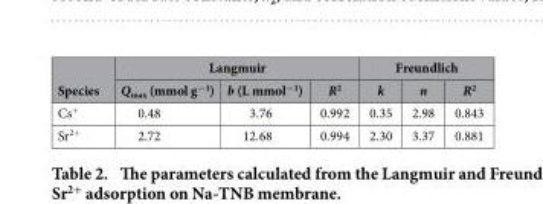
<table><thead><tr><td rowspan="2">Species</td><td colspan="3">Langmuir</td><td colspan="3">Freundlich</td></tr><tr><td>Q<sub>max</sub> (mmol g<sup>−1</sup>)</td><td>b (L mmol<sup>−1</sup>)</td><td>R<sup>2</sup></td><td>k</td><td>n</td><td>R<sup>2</sup></td></tr></thead><tbody><tr><td>Cs<sup>+</sup></td><td>0.48</td><td>3.76</td><td>0.992</td><td>0.35</td><td>2.98</td><td>0.843</td></tr><tr><td>Sr<sup>2+</sup></td><td>2.72</td><td>12.68</td><td>0.994</td><td>2.30</td><td>3.37</td><td>0.881</td></tr></tbody></table>